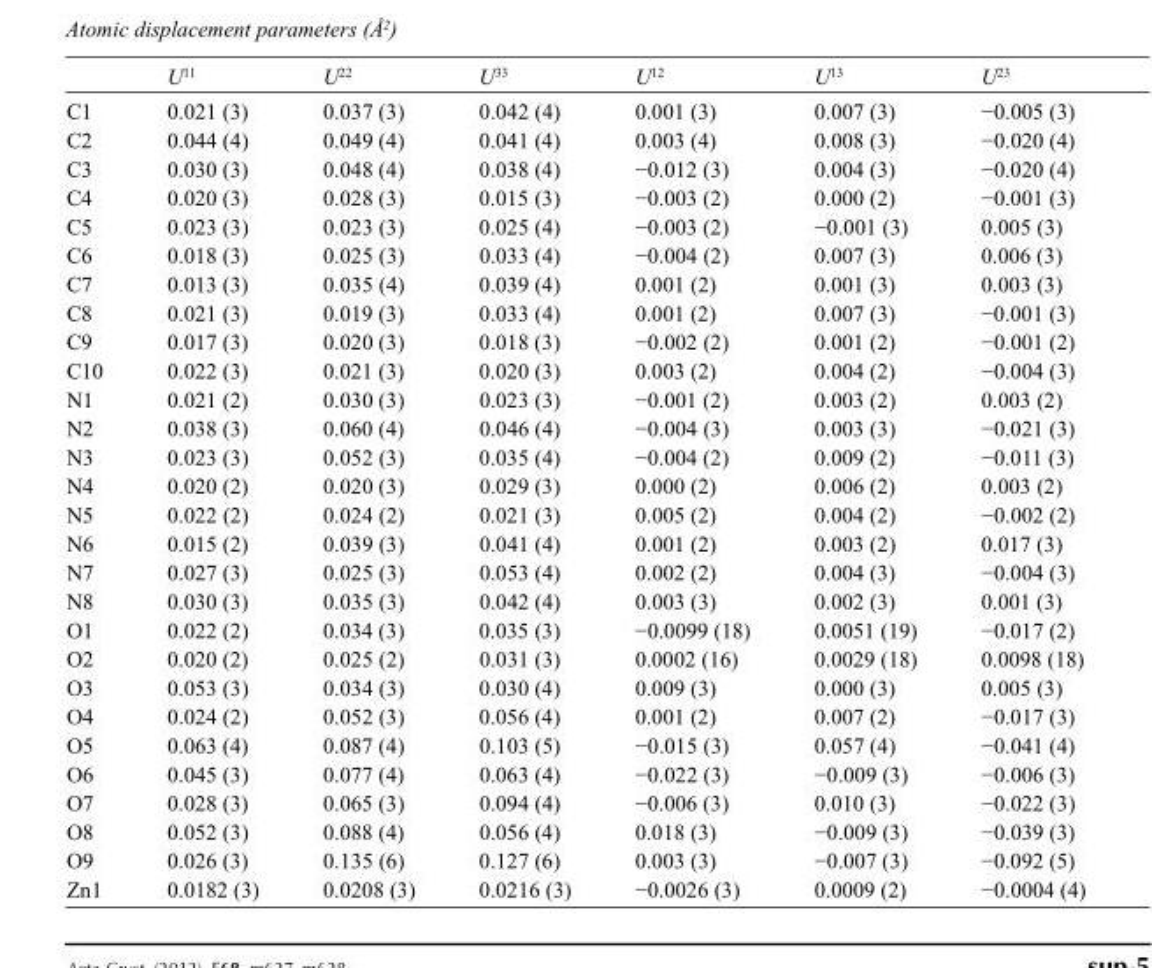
<table><thead><tr><td></td><td>U<sup>11</sup></td><td>U<sup>22</sup></td><td>U<sup>33</sup></td><td>U<sup>12</sup></td><td>U<sup>13</sup></td><td>U<sup>23</sup></td></tr></thead><tbody><tr><td>C1</td><td>0.021 (3)</td><td>0.037 (3)</td><td>0.042 (4)</td><td>0.001 (3)</td><td>0.007 (3)</td><td>−0.005 (3)</td></tr><tr><td>C2</td><td>0.044 (4)</td><td>0.049 (4)</td><td>0.041 (4)</td><td>0.003 (4)</td><td>0.008 (3)</td><td>−0.020 (4)</td></tr><tr><td>C3</td><td>0.030 (3)</td><td>0.048 (4)</td><td>0.038 (4)</td><td>−0.012 (3)</td><td>0.004 (3)</td><td>−0.020 (4)</td></tr><tr><td>C4</td><td>0.020 (3)</td><td>0.028 (3)</td><td>0.015 (3)</td><td>−0.003 (2)</td><td>0.000 (2)</td><td>−0.001 (3)</td></tr><tr><td>C5</td><td>0.023 (3)</td><td>0.023 (3)</td><td>0.025 (4)</td><td>−0.003 (2)</td><td>−0.001 (3)</td><td>0.005 (3)</td></tr><tr><td>C6</td><td>0.018 (3)</td><td>0.025 (3)</td><td>0.033 (4)</td><td>−0.004 (2)</td><td>0.007 (3)</td><td>0.006 (3)</td></tr><tr><td>C7</td><td>0.013 (3)</td><td>0.035 (4)</td><td>0.039 (4)</td><td>0.001 (2)</td><td>0.001 (3)</td><td>0.003 (3)</td></tr><tr><td>C8</td><td>0.021 (3)</td><td>0.019 (3)</td><td>0.033 (4)</td><td>0.001 (2)</td><td>0.007 (3)</td><td>−0.001 (3)</td></tr><tr><td>C9</td><td>0.017 (3)</td><td>0.020 (3)</td><td>0.018 (3)</td><td>−0.002 (2)</td><td>0.001 (2)</td><td>−0.001 (2)</td></tr><tr><td>C10</td><td>0.022 (3)</td><td>0.021 (3)</td><td>0.020 (3)</td><td>0.003 (2)</td><td>0.004 (2)</td><td>−0.004 (3)</td></tr><tr><td>N1</td><td>0.021 (2)</td><td>0.030 (3)</td><td>0.023 (3)</td><td>−0.001 (2)</td><td>0.003 (2)</td><td>0.003 (2)</td></tr><tr><td>N2</td><td>0.038 (3)</td><td>0.060 (4)</td><td>0.046 (4)</td><td>−0.004 (3)</td><td>0.003 (3)</td><td>−0.021 (3)</td></tr><tr><td>N3</td><td>0.023 (3)</td><td>0.052 (3)</td><td>0.035 (4)</td><td>−0.004 (2)</td><td>0.009 (2)</td><td>−0.011 (3)</td></tr><tr><td>N4</td><td>0.020 (2)</td><td>0.020 (3)</td><td>0.029 (3)</td><td>0.000 (2)</td><td>0.006 (2)</td><td>0.003 (2)</td></tr><tr><td>N5</td><td>0.022 (2)</td><td>0.024 (2)</td><td>0.021 (3)</td><td>0.005 (2)</td><td>0.004 (2)</td><td>−0.002 (2)</td></tr><tr><td>N6</td><td>0.015 (2)</td><td>0.039 (3)</td><td>0.041 (4)</td><td>0.001 (2)</td><td>0.003 (2)</td><td>0.017 (3)</td></tr><tr><td>N7</td><td>0.027 (3)</td><td>0.025 (3)</td><td>0.053 (4)</td><td>0.002 (2)</td><td>0.004 (3)</td><td>−0.004 (3)</td></tr><tr><td>N8</td><td>0.030 (3)</td><td>0.035 (3)</td><td>0.042 (4)</td><td>0.003 (3)</td><td>0.002 (3)</td><td>0.001 (3)</td></tr><tr><td>O1</td><td>0.022 (2)</td><td>0.034 (3)</td><td>0.035 (3)</td><td>−0.0099 (18)</td><td>0.0051 (19)</td><td>−0.017 (2)</td></tr><tr><td>O2</td><td>0.020 (2)</td><td>0.025 (2)</td><td>0.031 (3)</td><td>0.0002 (16)</td><td>0.0029 (18)</td><td>0.0098 (18)</td></tr><tr><td>O3</td><td>0.053 (3)</td><td>0.034 (3)</td><td>0.030 (4)</td><td>0.009 (3)</td><td>0.000 (3)</td><td>0.005 (3)</td></tr><tr><td>O4</td><td>0.024 (2)</td><td>0.052 (3)</td><td>0.056 (4)</td><td>0.001 (2)</td><td>0.007 (2)</td><td>−0.017 (3)</td></tr><tr><td>O5</td><td>0.063 (4)</td><td>0.087 (4)</td><td>0.103 (5)</td><td>−0.015 (3)</td><td>0.057 (4)</td><td>−0.041 (4)</td></tr><tr><td>O6</td><td>0.045 (3)</td><td>0.077 (4)</td><td>0.063 (4)</td><td>−0.022 (3)</td><td>−0.009 (3)</td><td>−0.006 (3)</td></tr><tr><td>O7</td><td>0.028 (3)</td><td>0.065 (3)</td><td>0.094 (4)</td><td>−0.006 (3)</td><td>0.010 (3)</td><td>−0.022 (3)</td></tr><tr><td>O8</td><td>0.052 (3)</td><td>0.088 (4)</td><td>0.056 (4)</td><td>0.018 (3)</td><td>−0.009 (3)</td><td>−0.039 (3)</td></tr><tr><td>O9</td><td>0.026 (3)</td><td>0.135 (6)</td><td>0.127 (6)</td><td>0.003 (3)</td><td>−0.007 (3)</td><td>−0.092 (5)</td></tr><tr><td>Zn1</td><td>0.0182 (3)</td><td>0.0208 (3)</td><td>0.0216 (3)</td><td>−0.0026 (3)</td><td>0.0009 (2)</td><td>−0.0004 (4)</td></tr></tbody></table>